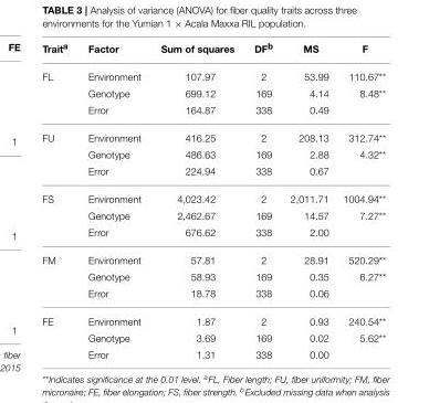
<table><thead><tr><td>Trait<sup>a</sup></td><td>Factor</td><td>Sum of squares</td><td>DF<sup>b</sup></td><td>MS</td><td>F</td></tr></thead><tbody><tr><td rowspan="3">FL</td><td>Environment</td><td>107.97</td><td>2</td><td>53.99</td><td>110.67**</td></tr><tr><td>Genotype</td><td>699.12</td><td>169</td><td>4.14</td><td>8.48**</td></tr><tr><td>Error</td><td>164.87</td><td>338</td><td>0.49</td><td></td></tr><tr><td rowspan="3">FU</td><td>Environment</td><td>416.25</td><td>2</td><td>208.13</td><td>312.74**</td></tr><tr><td>Genotype</td><td>486.63</td><td>169</td><td>2.88</td><td>4.32**</td></tr><tr><td>Error</td><td>224.94</td><td>338</td><td>0.67</td><td></td></tr><tr><td rowspan="3">FS</td><td>Environment</td><td>4,023.42</td><td>2</td><td>2,011.71</td><td>1004.94**</td></tr><tr><td>Genotype</td><td>2,462.67</td><td>169</td><td>14.57</td><td>7.27**</td></tr><tr><td>Error</td><td>676.62</td><td>338</td><td>2.00</td><td></td></tr><tr><td rowspan="3">FM</td><td>Environment</td><td>57.81</td><td>2</td><td>28.91</td><td>520.29**</td></tr><tr><td>Genotype</td><td>58.93</td><td>169</td><td>0.35</td><td>6.27**</td></tr><tr><td>Error</td><td>18.78</td><td>338</td><td>0.06</td><td></td></tr><tr><td rowspan="3">FE</td><td>Environment</td><td>1.87</td><td>2</td><td>0.93</td><td>240.54**</td></tr><tr><td>Genotype</td><td>3.69</td><td>169</td><td>0.02</td><td>5.62**</td></tr><tr><td>Error</td><td>1.31</td><td>338</td><td>0.00</td><td></td></tr></tbody></table>